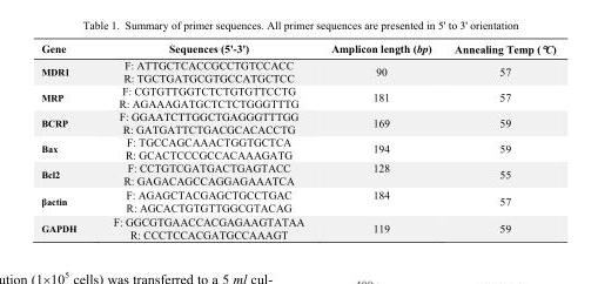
<table><thead><tr><td>Gene</td><td>Sequences (5&#x27;-3&#x27;)</td><td>Amplicon length (bp)</td><td>Annealing Temp (°C)</td></tr></thead><tbody><tr><td>MDR1</td><td>F: ATTGCTCACCGCCTGTCCACC R: TGCTGATGCGTGCCATGCTCC</td><td>90</td><td>57</td></tr><tr><td>MRP</td><td>F: CGTGTTGGTCTCTGTGTTCCTG R: AGAAAGATGCTCTCTGGGTTTG</td><td>181</td><td>57</td></tr><tr><td>BCRP</td><td>F: GGAATCTTGGCTGAGGGTTTGG R: GATGATTCTGACGCACACCTG</td><td>169</td><td>59</td></tr><tr><td>Bax</td><td>F: TGCCAGCAAACTGGTGCTCA R: GCACTCCCGCCACAAAGATG</td><td>194</td><td>59</td></tr><tr><td>Bcl2</td><td>F: CCTGTCGATGACTGAGTACC R: GAGACAGCCAGGAGAAATCA</td><td>128</td><td>55</td></tr><tr><td>βactin</td><td>F: AGAGCTACGAGCTGCCTGAC R: AGCACTGTGTTGGCGTACAG</td><td>184</td><td>57</td></tr><tr><td>GAPDH</td><td>F: GGCGTGAACCACGAGAAGTATAA R: CCCTCCACGATGCCAAAGT</td><td>119</td><td>59</td></tr></tbody></table>